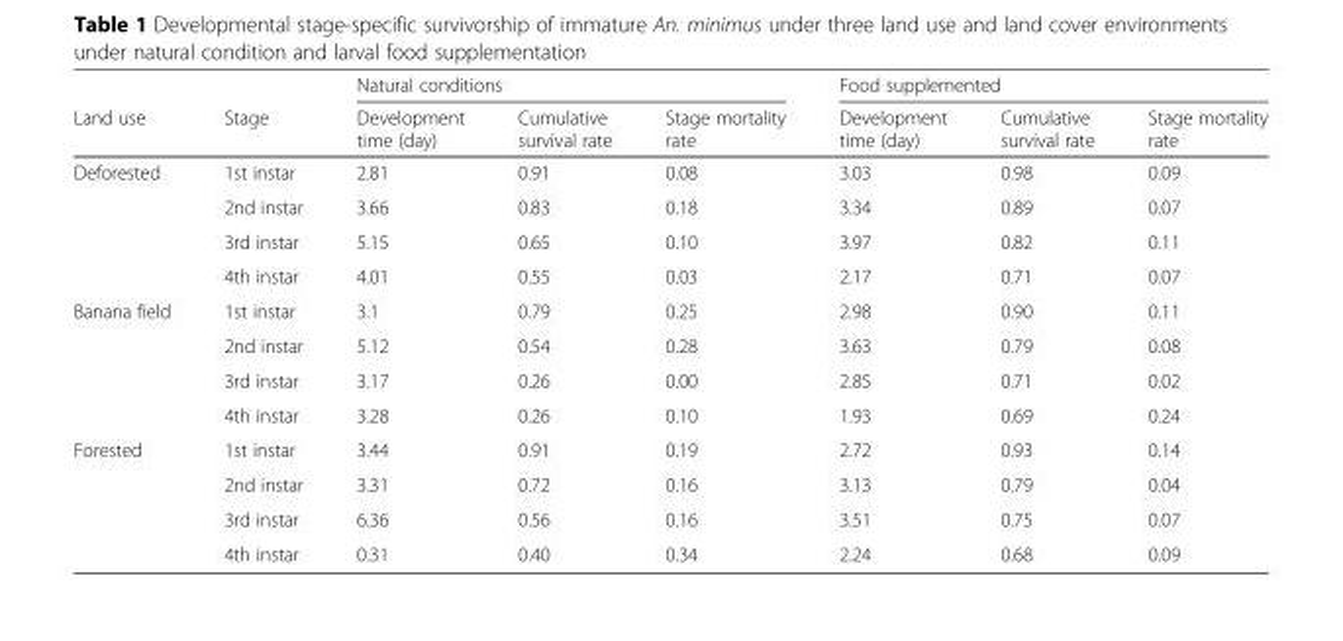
<table><thead><tr><td rowspan="2">Land use</td><td rowspan="2">Stage</td><td colspan="3">Natural conditions</td><td colspan="3">Food supplemented</td></tr><tr><td>Development time (day)</td><td>Cumulative survival rate</td><td>Stage mortality rate</td><td>Development time (day)</td><td>Cumulative survival rate</td><td>Stage mortality rate</td></tr></thead><tbody><tr><td rowspan="4">Deforested</td><td>1st instar</td><td>2.81</td><td>0.91</td><td>0.08</td><td>3.03</td><td>0.98</td><td>0.09</td></tr><tr><td>2nd instar</td><td>3.66</td><td>0.83</td><td>0.18</td><td>3.34</td><td>0.89</td><td>0.07</td></tr><tr><td>3rd instar</td><td>5.15</td><td>0.65</td><td>0.10</td><td>3.97</td><td>0.82</td><td>0.11</td></tr><tr><td>4th instar</td><td>4.01</td><td>0.55</td><td>0.03</td><td>2.17</td><td>0.71</td><td>0.07</td></tr><tr><td rowspan="4">Banana field</td><td>1st instar</td><td>3.1</td><td>0.79</td><td>0.25</td><td>2.98</td><td>0.90</td><td>0.11</td></tr><tr><td>2nd instar</td><td>5.12</td><td>0.54</td><td>0.28</td><td>3.63</td><td>0.79</td><td>0.08</td></tr><tr><td>3rd instar</td><td>3.17</td><td>0.26</td><td>0.00</td><td>2.85</td><td>0.71</td><td>0.02</td></tr><tr><td>4th instar</td><td>3.28</td><td>0.26</td><td>0.10</td><td>1.93</td><td>0.69</td><td>0.24</td></tr><tr><td rowspan="4">Forested</td><td>1st instar</td><td>3.44</td><td>0.91</td><td>0.19</td><td>2.72</td><td>0.93</td><td>0.14</td></tr><tr><td>2nd instar</td><td>3.31</td><td>0.72</td><td>0.16</td><td>3.13</td><td>0.79</td><td>0.04</td></tr><tr><td>3rd instar</td><td>6.36</td><td>0.56</td><td>0.16</td><td>3.51</td><td>0.75</td><td>0.07</td></tr><tr><td>4th instar</td><td>0.31</td><td>0.40</td><td>0.34</td><td>2.24</td><td>0.68</td><td>0.09</td></tr></tbody></table>